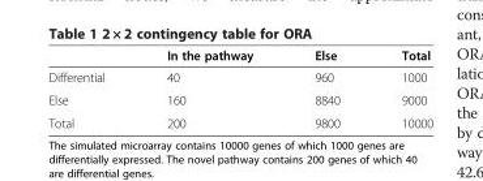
<table><thead><tr><td></td><td>In the pathway</td><td>Else</td><td>Total</td></tr></thead><tbody><tr><td>Differential</td><td>40</td><td>960</td><td>1000</td></tr><tr><td>Else</td><td>160</td><td>8840</td><td>9000</td></tr><tr><td>Total</td><td>200</td><td>9800</td><td>10000</td></tr></tbody></table>